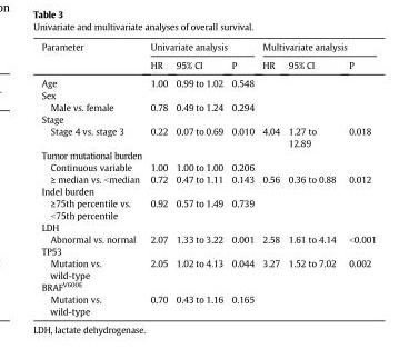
<table><thead><tr><td rowspan="2">Parameter</td><td colspan="3">Univariate analysis</td><td colspan="3">Multivariate analysis</td></tr><tr><td>HR</td><td>95% CI</td><td>P</td><td>HR</td><td>95% CI</td><td>P</td></tr></thead><tbody><tr><td>Age</td><td>1.00</td><td>0.99 to 1.02</td><td>0.548</td><td></td><td></td><td></td></tr><tr><td colspan="7">Sex</td></tr><tr><td>Male vs. female</td><td>0.78</td><td>0.49 to 1.24</td><td>0.294</td><td></td><td></td><td></td></tr><tr><td colspan="7">Stage</td></tr><tr><td>Stage 4 vs. stage 3</td><td>0.22</td><td>0.07 to 0.69</td><td>0.010</td><td>4.04</td><td>1.27 to 12.89</td><td>0.018</td></tr><tr><td colspan="7">Tumor mutational burden</td></tr><tr><td>Continuous variable</td><td>1.00</td><td>1.00 to 1.00</td><td>0.206</td><td></td><td></td><td></td></tr><tr><td>≥ median vs. &lt;median</td><td>0.72</td><td>0.47 to 1.11</td><td>0.143</td><td>0.56</td><td>0.36 to 0.88</td><td>0.012</td></tr><tr><td colspan="7">Indel burden</td></tr><tr><td>≥75th percentile vs.</td><td rowspan="2">0.92</td><td rowspan="2">0.57 to 1.49</td><td rowspan="2">0.739</td><td rowspan="2"></td><td rowspan="2"></td><td rowspan="2"></td></tr><tr><td>&lt;75th percentile</td></tr><tr><td colspan="7">LDH</td></tr><tr><td>Abnormal vs. normal</td><td>2.07</td><td>1.33 to 3.22</td><td>0.001</td><td>2.58</td><td>1.61 to 4.14</td><td>&lt;0.001</td></tr><tr><td colspan="7">TP53</td></tr><tr><td>Mutation vs. wild-type</td><td>2.05</td><td>1.02 to 4.13</td><td>0.044</td><td>3.27</td><td>1.52 to 7.02</td><td>0.002</td></tr><tr><td colspan="7">BRAF<sup>V600E</sup></td></tr><tr><td>Mutation vs. wild-type</td><td>0.70</td><td>0.43 to 1.16</td><td>0.165</td><td></td><td></td><td></td></tr></tbody></table>